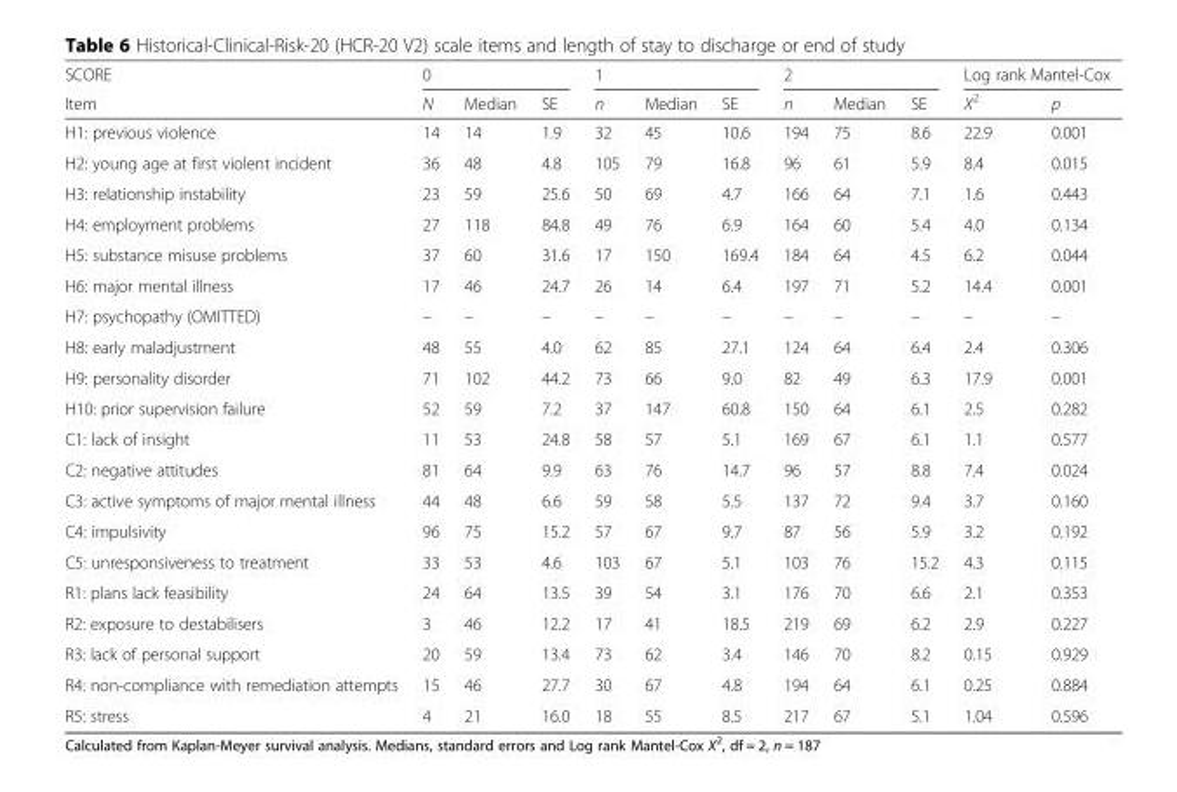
<table><thead><tr><td rowspan="2">SCORE Item</td><td colspan="3">0</td><td colspan="3">1</td><td colspan="3">2</td><td colspan="2">Log rank Mantel-Cox</td></tr><tr><td>N</td><td>Median</td><td>SE</td><td>n</td><td>Median</td><td>SE</td><td>n</td><td>Median</td><td>SE</td><td>X<sup>2</sup></td><td>p</td></tr></thead><tbody><tr><td>H1: previous violence</td><td>14</td><td>14</td><td>1.9</td><td>32</td><td>45</td><td>10.6</td><td>194</td><td>75</td><td>8.6</td><td>22.9</td><td>0.001</td></tr><tr><td>H2: young age at first violent incident</td><td>36</td><td>48</td><td>4.8</td><td>105</td><td>79</td><td>16.8</td><td>96</td><td>61</td><td>5.9</td><td>8.4</td><td>0.015</td></tr><tr><td>H3: relationship instability</td><td>23</td><td>59</td><td>25.6</td><td>50</td><td>69</td><td>4.7</td><td>166</td><td>64</td><td>7.1</td><td>1.6</td><td>0.443</td></tr><tr><td>H4: employment problems</td><td>27</td><td>118</td><td>84.8</td><td>49</td><td>76</td><td>6.9</td><td>164</td><td>60</td><td>5.4</td><td>4.0</td><td>0.134</td></tr><tr><td>H5: substance misuse problems</td><td>37</td><td>60</td><td>31.6</td><td>17</td><td>150</td><td>169.4</td><td>184</td><td>64</td><td>4.5</td><td>6.2</td><td>0.044</td></tr><tr><td>H6: major mental illness</td><td>17</td><td>46</td><td>24.7</td><td>26</td><td>14</td><td>6.4</td><td>197</td><td>71</td><td>5.2</td><td>14.4</td><td>0.001</td></tr><tr><td>H7: psychopathy (OMITTED)</td><td>–</td><td>–</td><td>–</td><td>–</td><td>–</td><td>–</td><td>–</td><td>–</td><td>–</td><td>–</td><td>–</td></tr><tr><td>H8: early maladjustment</td><td>48</td><td>55</td><td>4.0</td><td>62</td><td>85</td><td>27.1</td><td>124</td><td>64</td><td>6.4</td><td>2.4</td><td>0.306</td></tr><tr><td>H9: personality disorder</td><td>71</td><td>102</td><td>44.2</td><td>73</td><td>66</td><td>9.0</td><td>82</td><td>49</td><td>6.3</td><td>17.9</td><td>0.001</td></tr><tr><td>H10: prior supervision failure</td><td>52</td><td>59</td><td>7.2</td><td>37</td><td>147</td><td>60.8</td><td>150</td><td>64</td><td>6.1</td><td>2.5</td><td>0.282</td></tr><tr><td>C1: lack of insight</td><td>11</td><td>53</td><td>24.8</td><td>58</td><td>57</td><td>5.1</td><td>169</td><td>67</td><td>6.1</td><td>1.1</td><td>0.577</td></tr><tr><td>C2: negative attitudes</td><td>81</td><td>64</td><td>9.9</td><td>63</td><td>76</td><td>14.7</td><td>96</td><td>57</td><td>8.8</td><td>7.4</td><td>0.024</td></tr><tr><td>C3: active symptoms of major mental illness</td><td>44</td><td>48</td><td>6.6</td><td>59</td><td>58</td><td>5.5</td><td>137</td><td>72</td><td>9.4</td><td>3.7</td><td>0.160</td></tr><tr><td>C4: impulsivity</td><td>96</td><td>75</td><td>15.2</td><td>57</td><td>67</td><td>9.7</td><td>87</td><td>56</td><td>5.9</td><td>3.2</td><td>0.192</td></tr><tr><td>C5: unresponsiveness to treatment</td><td>33</td><td>53</td><td>4.6</td><td>103</td><td>67</td><td>5.1</td><td>103</td><td>76</td><td>15.2</td><td>4.3</td><td>0.115</td></tr><tr><td>R1: plans lack feasibility</td><td>24</td><td>64</td><td>13.5</td><td>39</td><td>54</td><td>3.1</td><td>176</td><td>70</td><td>6.6</td><td>2.1</td><td>0.353</td></tr><tr><td>R2: exposure to destabilisers</td><td>3</td><td>46</td><td>12.2</td><td>17</td><td>41</td><td>18.5</td><td>219</td><td>69</td><td>6.2</td><td>2.9</td><td>0.227</td></tr><tr><td>R3: lack of personal support</td><td>20</td><td>59</td><td>13.4</td><td>73</td><td>62</td><td>3.4</td><td>146</td><td>70</td><td>8.2</td><td>0.15</td><td>0.929</td></tr><tr><td>R4: non-compliance with remediation attempts</td><td>15</td><td>46</td><td>27.7</td><td>30</td><td>67</td><td>4.8</td><td>194</td><td>64</td><td>6.1</td><td>0.25</td><td>0.884</td></tr><tr><td>R5: stress</td><td>4</td><td>21</td><td>16.0</td><td>18</td><td>55</td><td>8.5</td><td>217</td><td>67</td><td>5.1</td><td>1.04</td><td>0.596</td></tr></tbody></table>